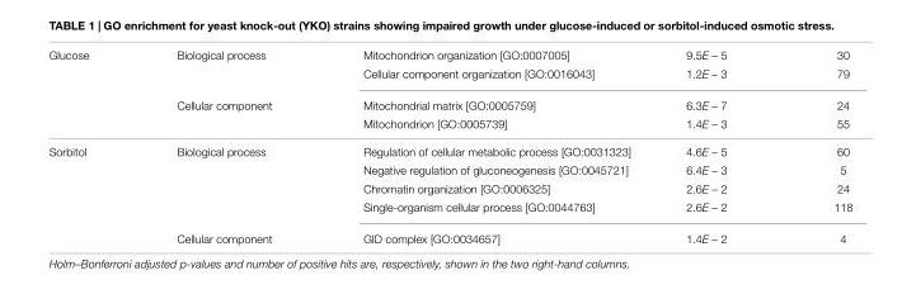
<table><tbody><tr><td rowspan="4">Glucose</td><td>Biological process</td><td>Mitochondrion organization [GO:0007005]</td><td>9.5E – 5</td><td>30</td></tr><tr><td></td><td>Cellular component organization [GO:0016043]</td><td>1.2E – 3</td><td>79</td></tr><tr><td>Cellular component</td><td>Mitochondrial matrix [GO:0005759]</td><td>6.3E – 7</td><td>24</td></tr><tr><td></td><td>Mitochondrion [GO:0005739]</td><td>1.4E – 3</td><td>55</td></tr><tr><td rowspan="5">Sorbitol</td><td>Biological process</td><td>Regulation of cellular metabolic process [GO:0031323]</td><td>4.6E – 5</td><td>60</td></tr><tr><td></td><td>Negative regulation of gluconeogenesis [GO:0045721]</td><td>6.4E – 3</td><td>5</td></tr><tr><td></td><td>Chromatin organization [GO:0006325]</td><td>2.6E – 2</td><td>24</td></tr><tr><td></td><td>Single-organism cellular process [GO:0044763]</td><td>2.6E – 2</td><td>118</td></tr><tr><td>Cellular component</td><td>GID complex [GO:0034657]</td><td>1.4E – 2</td><td>4</td></tr></tbody></table>